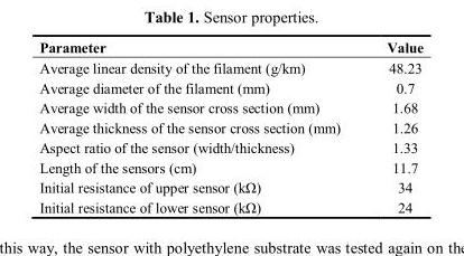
<table><thead><tr><td>Parameter</td><td>Value</td></tr></thead><tbody><tr><td>Average linear density of the filament (g/km)</td><td>48.23</td></tr><tr><td>Average diameter of the filament (mm)</td><td>0.7</td></tr><tr><td>Average width of the sensor cross section (mm)</td><td>1.68</td></tr><tr><td>Average thickness of the sensor cross section (mm)</td><td>1.26</td></tr><tr><td>Aspect ratio of the sensor (width/thickness)</td><td>1.33</td></tr><tr><td>Length of the sensors (cm)</td><td>11.7</td></tr><tr><td>Initial resistance of upper sensor (kΩ)</td><td>34</td></tr><tr><td>Initial resistance of lower sensor (kΩ)</td><td>24</td></tr></tbody></table>